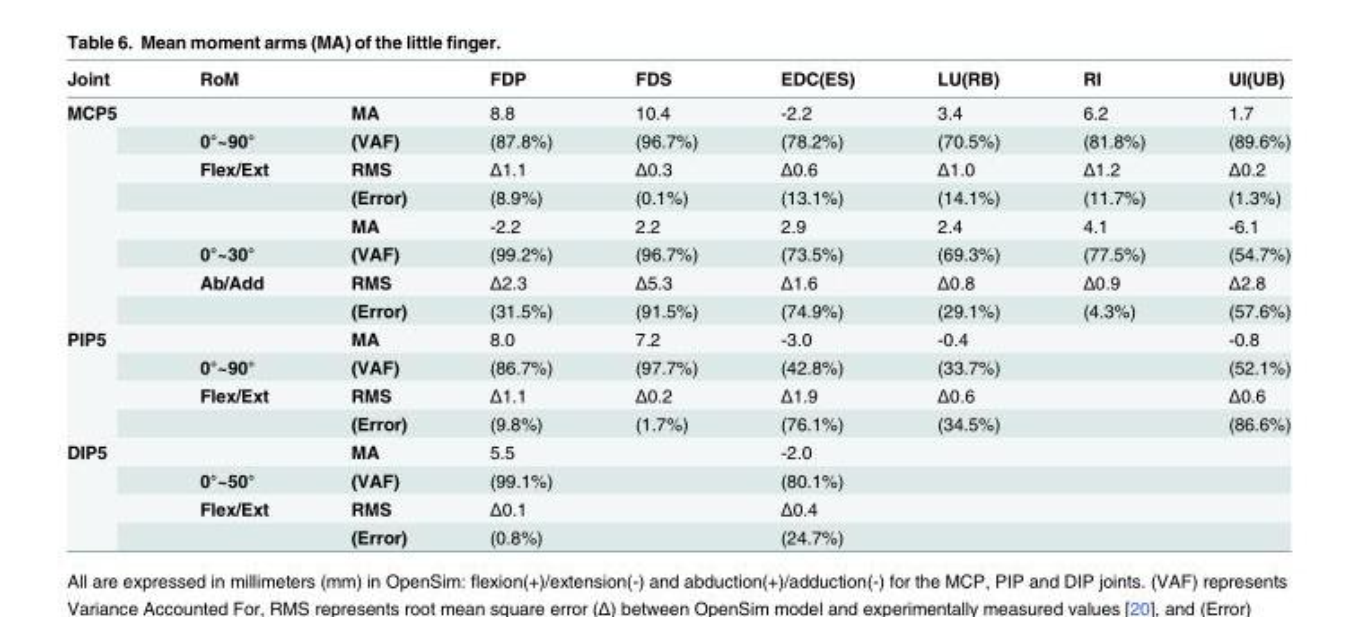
<table><thead><tr><td>Joint</td><td>RoM</td><td></td><td>FDP</td><td>FDS</td><td>EDC(ES)</td><td>LU(RB)</td><td>RI</td><td>UI(UB)</td></tr></thead><tbody><tr><td rowspan="8">MCP5</td><td></td><td>MA</td><td>8.8</td><td>10.4</td><td>-2.2</td><td>3.4</td><td>6.2</td><td>1.7</td></tr><tr><td>0°~90°</td><td>(VAF)</td><td>(87.8%)</td><td>(96.7%)</td><td>(78.2%)</td><td>(70.5%)</td><td>(81.8%)</td><td>(89.6%)</td></tr><tr><td>Flex/Ext</td><td>RMS</td><td>Δ1.1</td><td>Δ0.3</td><td>Δ0.6</td><td>Δ1.0</td><td>Δ1.2</td><td>Δ0.2</td></tr><tr><td></td><td>(Error)</td><td>(8.9%)</td><td>(0.1%)</td><td>(13.1%)</td><td>(14.1%)</td><td>(11.7%)</td><td>(1.3%)</td></tr><tr><td></td><td>MA</td><td>-2.2</td><td>2.2</td><td>2.9</td><td>2.4</td><td>4.1</td><td>-6.1</td></tr><tr><td>0°~30°</td><td>(VAF)</td><td>(99.2%)</td><td>(96.7%)</td><td>(73.5%)</td><td>(69.3%)</td><td>(77.5%)</td><td>(54.7%)</td></tr><tr><td>Ab/Add</td><td>RMS</td><td>Δ2.3</td><td>Δ5.3</td><td>Δ1.6</td><td>Δ0.8</td><td>Δ0.9</td><td>Δ2.8</td></tr><tr><td></td><td>(Error)</td><td>(31.5%)</td><td>(91.5%)</td><td>(74.9%)</td><td>(29.1%)</td><td>(4.3%)</td><td>(57.6%)</td></tr><tr><td rowspan="4">PIP5</td><td></td><td>MA</td><td>8.0</td><td>7.2</td><td>-3.0</td><td>-0.4</td><td></td><td>-0.8</td></tr><tr><td>0°~90°</td><td>(VAF)</td><td>(86.7%)</td><td>(97.7%)</td><td>(42.8%)</td><td>(33.7%)</td><td></td><td>(52.1%)</td></tr><tr><td>Flex/Ext</td><td>RMS</td><td>Δ1.1</td><td>Δ0.2</td><td>Δ1.9</td><td>Δ0.6</td><td></td><td>Δ0.6</td></tr><tr><td></td><td>(Error)</td><td>(9.8%)</td><td>(1.7%)</td><td>(76.1%)</td><td>(34.5%)</td><td></td><td>(86.6%)</td></tr><tr><td rowspan="4">DIP5</td><td></td><td>MA</td><td>5.5</td><td></td><td>-2.0</td><td></td><td></td><td></td></tr><tr><td>0°~50°</td><td>(VAF)</td><td>(99.1%)</td><td></td><td>(80.1%)</td><td></td><td></td><td></td></tr><tr><td>Flex/Ext</td><td>RMS</td><td>Δ0.1</td><td></td><td>Δ0.4</td><td></td><td></td><td></td></tr><tr><td></td><td>(Error)</td><td>(0.8%)</td><td></td><td>(24.7%)</td><td></td><td></td><td></td></tr></tbody></table>